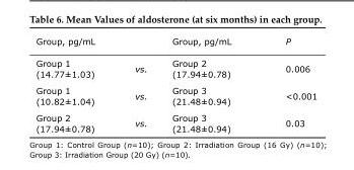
<table><thead><tr><td>Group, pg/mL</td><td></td><td>Group, pg/mL</td><td>P</td></tr></thead><tbody><tr><td>Group 1 (14.77±1.03)</td><td>vs.</td><td>Group 2 (17.94±0.78)</td><td>0.006</td></tr><tr><td>Group 1 (10.82±1.04)</td><td>vs.</td><td>Group 3 (21.48±0.94)</td><td>&lt;0.001</td></tr><tr><td>Group 2 (17.94±0.78)</td><td>vs.</td><td>Group 3 (21.48±0.94)</td><td>0.03</td></tr></tbody></table>